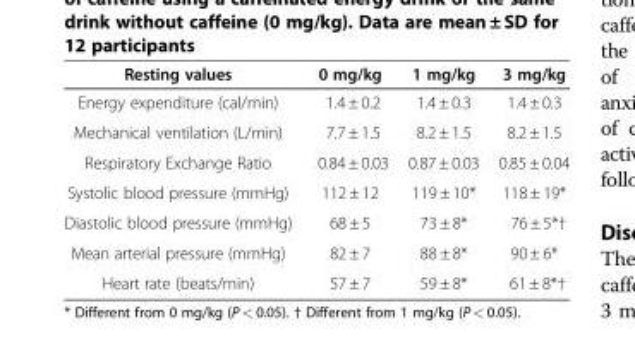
<table><thead><tr><td>Resting values</td><td>0 mg/kg</td><td>1 mg/kg</td><td>3 mg/kg</td></tr></thead><tbody><tr><td>Energy expenditure (cal/min)</td><td>1.4 ± 0.2</td><td>1.4 ± 0.3</td><td>1.4 ± 0.3</td></tr><tr><td>Mechanical ventilation (L/min)</td><td>7.7 ± 1.5</td><td>8.2 ± 1.5</td><td>8.2 ± 1.5</td></tr><tr><td>Respiratory Exchange Ratio</td><td>0.84 ± 0.03</td><td>0.87 ± 0.03</td><td>0.85 ± 0.04</td></tr><tr><td>Systolic blood pressure (mmHg)</td><td>112 ± 12</td><td>119 ± 10*</td><td>118 ± 19*</td></tr><tr><td>Diastolic blood pressure (mmHg)</td><td>68 ± 5</td><td>73 ± 8*</td><td>76 ± 5*†</td></tr><tr><td>Mean arterial pressure (mmHg)</td><td>82 ± 7</td><td>88 ± 8*</td><td>90 ± 6*</td></tr><tr><td>Heart rate (beats/min)</td><td>57 ± 7</td><td>59 ± 8*</td><td>61 ± 8*†</td></tr></tbody></table>